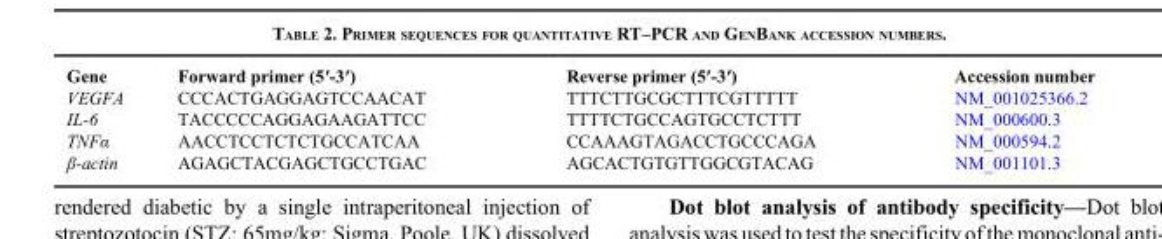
<table><thead><tr><td>Gene</td><td>Forward primer (5′-3′)</td><td>Reverse primer (5′-3′)</td><td>Accession number</td></tr></thead><tbody><tr><td>VEGFA</td><td>CCCACTGAGGAGTCCAACAT</td><td>TTTCTTGCGCTTTCGTTTTT</td><td>NM_001025366.2</td></tr><tr><td>IL-6</td><td>TACCCCCAGGAGAAGATTCC</td><td>TTTTCTGCCAGTGCCTCTTT</td><td>NM_000600.3</td></tr><tr><td>TNFα</td><td>AACCTCCTCTCTGCCATCAA</td><td>CCAAAGTAGACCTGCCCAGA</td><td>NM_000594.2</td></tr><tr><td>β-actin</td><td>AGAGCTACGAGCTGCCTGAC</td><td>AGCACTGTGTTGGCGTACAG</td><td>NM_001101.3</td></tr></tbody></table>